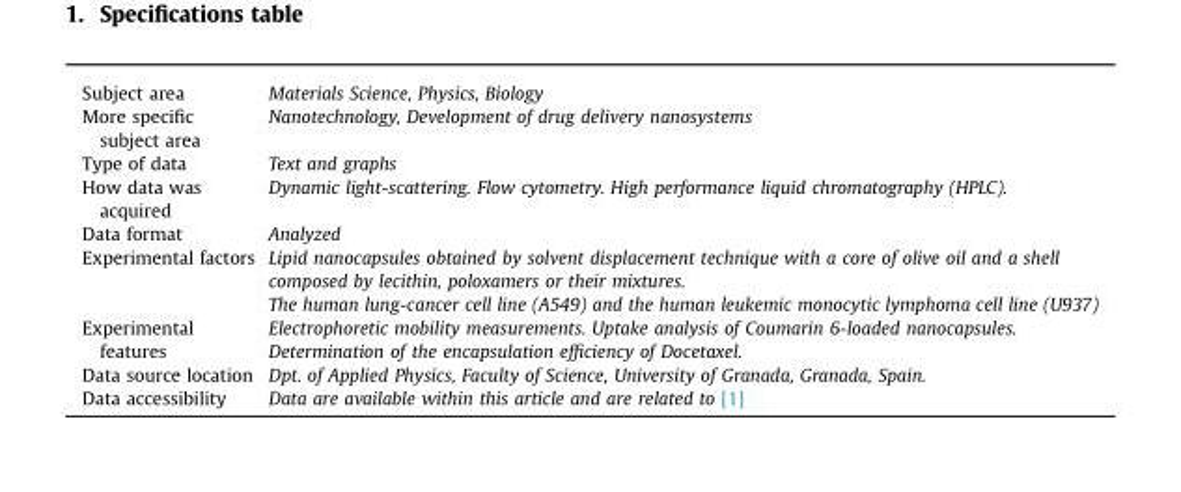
<table><tbody><tr><td>Subject area</td><td>Materials Science, Physics, Biology</td></tr><tr><td>More specific subject area</td><td>Nanotechnology, Development of drug delivery nanosystems</td></tr><tr><td>Type of data</td><td>Text and graphs</td></tr><tr><td>How data was acquired</td><td>Dynamic light-scattering. Flow cytometry. High performance liquid chromatography (HPLC).</td></tr><tr><td>Data format</td><td>Analyzed</td></tr><tr><td rowspan="2">Experimental factors</td><td>Lipid nanocapsules obtained by solvent displacement technique with a core of olive oil and a shell composed by lecithin, poloxamers or their mixtures.</td></tr><tr><td>The human lung-cancer cell line (A549) and the human leukemic monocytic lymphoma cell line (U937)</td></tr><tr><td>Experimental features</td><td>Electrophoretic mobility measurements. Uptake analysis of Coumarin 6-loaded nanocapsules. Determination of the encapsulation efficiency of Docetaxel.</td></tr><tr><td>Data source location</td><td>Dpt. of Applied Physics, Faculty of Science, University of Granada, Granada, Spain.</td></tr><tr><td>Data accessibility</td><td>Data are available within this article and are related to [1]</td></tr></tbody></table>